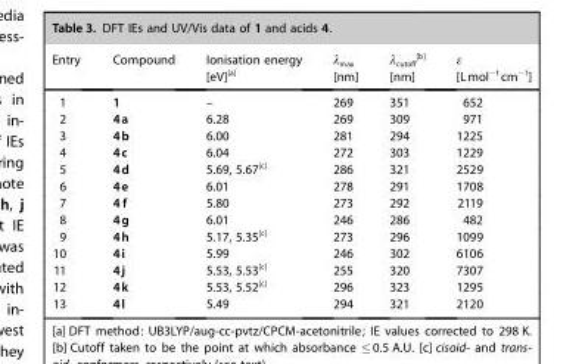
<table><thead><tr><td>Entry</td><td>Compound</td><td>Ionisation energy [eV]<sup>[a]</sup></td><td>λ<sub>max</sub> [nm]</td><td>λ<sub>cutoff</sub> <sup>[b]</sup> [nm]</td><td>ε [Lmol<sup>−1</sup>cm<sup>−1</sup>]</td></tr></thead><tbody><tr><td>1</td><td>1</td><td>–</td><td>269</td><td>351</td><td>652</td></tr><tr><td>2</td><td>4a</td><td>6.28</td><td>269</td><td>309</td><td>971</td></tr><tr><td>3</td><td>4b</td><td>6.00</td><td>281</td><td>294</td><td>1225</td></tr><tr><td>4</td><td>4c</td><td>6.04</td><td>272</td><td>303</td><td>1229</td></tr><tr><td>5</td><td>4d</td><td>5.69, 5.67<sup>[c]</sup></td><td>286</td><td>321</td><td>2529</td></tr><tr><td>6</td><td>4e</td><td>6.01</td><td>278</td><td>291</td><td>1708</td></tr><tr><td>7</td><td>4 f</td><td>5.80</td><td>273</td><td>292</td><td>2119</td></tr><tr><td>8</td><td>4g</td><td>6.01</td><td>246</td><td>286</td><td>482</td></tr><tr><td>9</td><td>4h</td><td>5.17, 5.35<sup>[c]</sup></td><td>273</td><td>296</td><td>1099</td></tr><tr><td>10</td><td>4i</td><td>5.99</td><td>246</td><td>302</td><td>6106</td></tr><tr><td>11</td><td>4j</td><td>5.53, 5.53<sup>[c]</sup></td><td>255</td><td>320</td><td>7307</td></tr><tr><td>12</td><td>4k</td><td>5.53, 5.52<sup>[c]</sup></td><td>296</td><td>323</td><td>1295</td></tr><tr><td>13</td><td>4l</td><td>5.49</td><td>294</td><td>321</td><td>2120</td></tr></tbody></table>